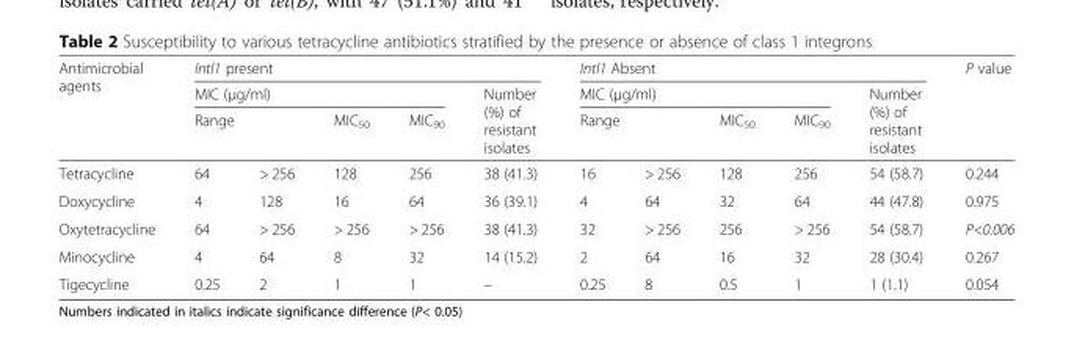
<table><thead><tr><td rowspan="4">Antimicrobial agents Tetracycline</td><td colspan="5">Intl1 present</td><td colspan="5">Intl1 Absent</td><td rowspan="4">P value 0.244</td></tr><tr><td colspan="4">MIC (μg/ml)</td><td rowspan="3">Number (%) of resistant isolates 38 (41.3)</td><td colspan="4">MIC (μg/ml)</td><td rowspan="3">Number (%) of resistant isolates 54 (58.7)</td></tr><tr><td colspan="2">Range</td><td rowspan="2">MIC<sub>50</sub> 128</td><td rowspan="2">MIC<sub>90</sub> 256</td><td colspan="2">Range</td><td rowspan="2">MIC<sub>50</sub> 128</td><td rowspan="2">MIC<sub>90</sub> 256</td></tr><tr><td>64</td><td>&gt; 256</td><td>16</td><td>&gt; 256</td></tr></thead><tbody><tr><td>Doxycycline</td><td>4</td><td>128</td><td>16</td><td>64</td><td>36 (39.1)</td><td>4</td><td>64</td><td>32</td><td>64</td><td>44 (47.8)</td><td>0.975</td></tr><tr><td>Oxytetracycline</td><td>64</td><td>&gt; 256</td><td>&gt; 256</td><td>&gt; 256</td><td>38 (41.3)</td><td>32</td><td>&gt; 256</td><td>256</td><td>&gt; 256</td><td>54 (58.7)</td><td>P&lt;0.006</td></tr><tr><td>Minocycline</td><td>4</td><td>64</td><td>8</td><td>32</td><td>14 (15.2)</td><td>2</td><td>64</td><td>16</td><td>32</td><td>28 (30.4)</td><td>0.267</td></tr><tr><td>Tigecycline</td><td>0.25</td><td>2</td><td>1</td><td>1</td><td>–</td><td>0.25</td><td>8</td><td>0.5</td><td>1</td><td>1 (1.1)</td><td>0.054</td></tr></tbody></table>